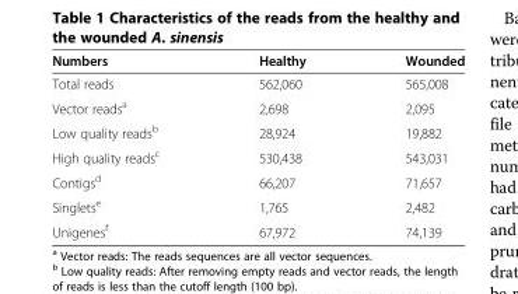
<table><thead><tr><td>Numbers</td><td>Healthy</td><td>Wounded</td></tr></thead><tbody><tr><td>Total reads</td><td>562,060</td><td>565,008</td></tr><tr><td>Vector reads<sup>a</sup></td><td>2,698</td><td>2,095</td></tr><tr><td>Low quality reads<sup>b</sup></td><td>28,924</td><td>19,882</td></tr><tr><td>High quality reads<sup>c</sup></td><td>530,438</td><td>543,031</td></tr><tr><td>Contigs<sup>d</sup></td><td>66,207</td><td>71,657</td></tr><tr><td>Singlets<sup>e</sup></td><td>1,765</td><td>2,482</td></tr><tr><td>Unigenes<sup>f</sup></td><td>67,972</td><td>74,139</td></tr></tbody></table>